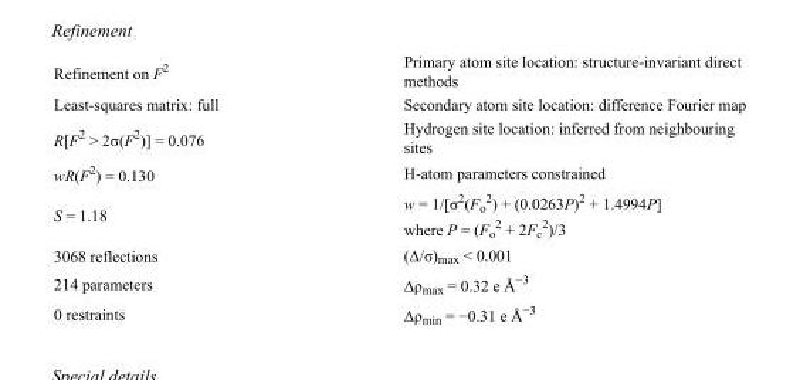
<table><tbody><tr><td>Refinement on F<sup>2</sup></td><td>Primary atom site location: structure-invariant direct methods</td></tr><tr><td>Least-squares matrix: full</td><td>Secondary atom site location: difference Fourier map</td></tr><tr><td>R[F<sup>2</sup> &gt; 2σ(F<sup>2</sup>)] = 0.076</td><td>Hydrogen site location: inferred from neighbouring sites</td></tr><tr><td>wR(F<sup>2</sup>) = 0.130</td><td>H-atom parameters constrained</td></tr><tr><td>S = 1.18</td><td>w = 1/[σ<sup>2</sup>(F<sub>o</sub> <sup>2</sup>) + (0.0263P)<sup>2</sup> + 1.4994P] where P = (F<sub>o</sub> <sup>2</sup> + 2F<sub>c</sub> <sup>2</sup>)/3</td></tr><tr><td>3068 reflections</td><td>(Δ/σ)<sub>max</sub> &lt; 0.001</td></tr><tr><td>214 parameters</td><td>Δρ<sub>max</sub> = 0.32 e Å<sup>−3</sup></td></tr><tr><td>0 restraints</td><td>Δρ<sub>min</sub> = −0.31 e Å<sup>−3</sup></td></tr></tbody></table>